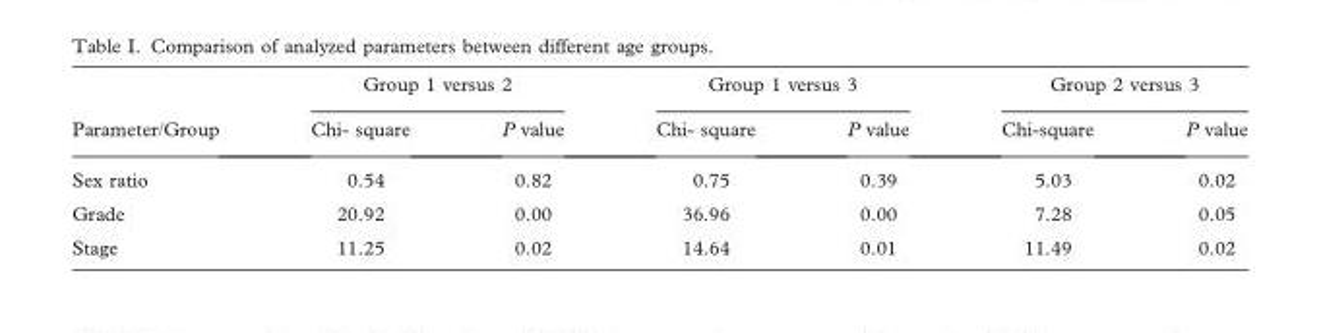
<table><thead><tr><td rowspan="2">Parameter/Group</td><td colspan="2">Group 1 versus 2</td><td colspan="2">Group 1 versus 3</td><td colspan="2">Group 2 versus 3</td></tr><tr><td>Chi- square</td><td>P value</td><td>Chi- square</td><td>P value</td><td>Chi-square</td><td>P value</td></tr></thead><tbody><tr><td>Sex ratio</td><td>0.54</td><td>0.82</td><td>0.75</td><td>0.39</td><td>5.03</td><td>0.02</td></tr><tr><td>Grade</td><td>20.92</td><td>0.00</td><td>36.96</td><td>0.00</td><td>7.28</td><td>0.05</td></tr><tr><td>Stage</td><td>11.25</td><td>0.02</td><td>14.64</td><td>0.01</td><td>11.49</td><td>0.02</td></tr></tbody></table>